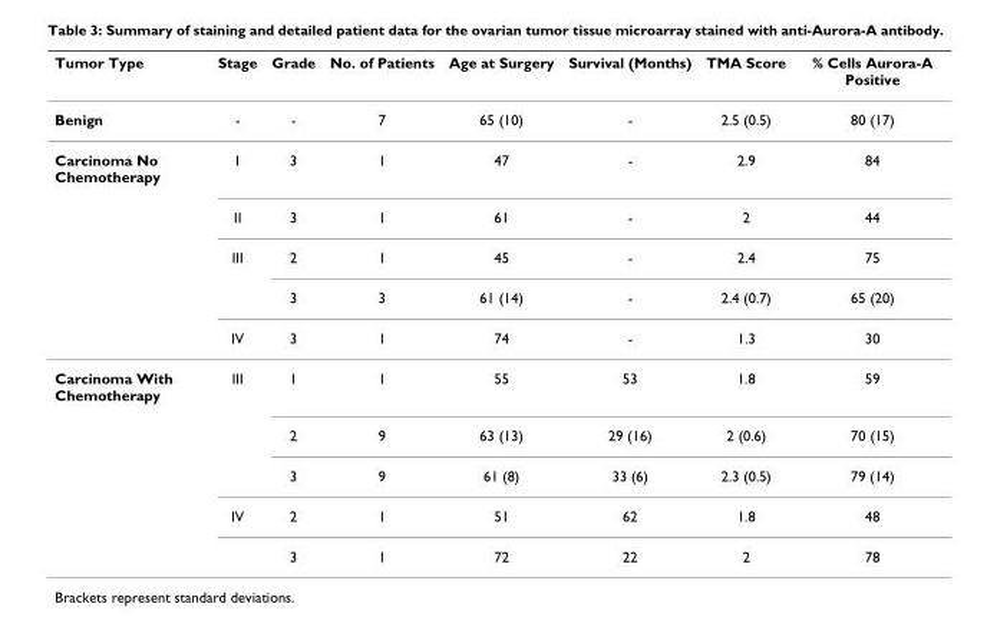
<table><thead><tr><td>Tumor Type</td><td>Stage</td><td>Grade</td><td>No. of Patients</td><td>Age at Surgery</td><td>Survival (Months)</td><td>TMA Score</td><td>% Cells Aurora-A Positive</td></tr></thead><tbody><tr><td>Benign</td><td>-</td><td>-</td><td>7</td><td>65 (10)</td><td>-</td><td>2.5 (0.5)</td><td>80 (17)</td></tr><tr><td rowspan="5">Carcinoma No Chemotherapy</td><td>I</td><td>3</td><td>1</td><td>47</td><td>-</td><td>2.9</td><td>84</td></tr><tr><td>II</td><td>3</td><td>1</td><td>61</td><td>-</td><td>2</td><td>44</td></tr><tr><td>III</td><td>2</td><td>1</td><td>45</td><td>-</td><td>2.4</td><td>75</td></tr><tr><td></td><td>3</td><td>3</td><td>61 (14)</td><td>-</td><td>2.4 (0.7)</td><td>65 (20)</td></tr><tr><td>IV</td><td>3</td><td>1</td><td>74</td><td>-</td><td>1.3</td><td>30</td></tr><tr><td rowspan="5">Carcinoma With Chemotherapy</td><td>III</td><td>1</td><td>1</td><td>55</td><td>53</td><td>1.8</td><td>59</td></tr><tr><td></td><td>2</td><td>9</td><td>63 (13)</td><td>29 (16)</td><td>2 (0.6)</td><td>70 (15)</td></tr><tr><td></td><td>3</td><td>9</td><td>61 (8)</td><td>33 (6)</td><td>2.3 (0.5)</td><td>79 (14)</td></tr><tr><td>IV</td><td>2</td><td>1</td><td>51</td><td>62</td><td>1.8</td><td>48</td></tr><tr><td></td><td>3</td><td>1</td><td>72</td><td>22</td><td>2</td><td>78</td></tr></tbody></table>